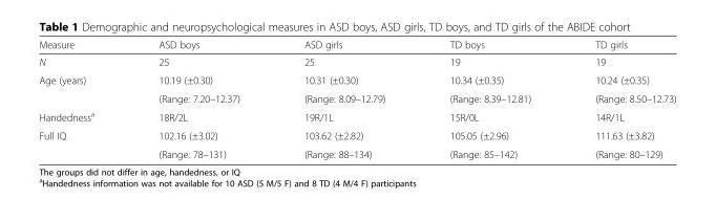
<table><thead><tr><td>Measure</td><td>ASD boys</td><td>ASD girls</td><td>TD boys</td><td>TD girls</td></tr></thead><tbody><tr><td>N</td><td>25</td><td>25</td><td>19</td><td>19</td></tr><tr><td rowspan="2">Age (years)</td><td>10.19 (±0.30)</td><td>10.31 (±0.30)</td><td>10.34 (±0.35)</td><td>10.24 (±0.35)</td></tr><tr><td>(Range: 7.20–12.37)</td><td>(Range: 8.09–12.79)</td><td>(Range: 8.39–12.81)</td><td>(Range: 8.50–12.73)</td></tr><tr><td>Handedness<sup>a</sup></td><td>18R/2L</td><td>19R/1L</td><td>15R/0L</td><td>14R/1L</td></tr><tr><td rowspan="2">Full IQ</td><td>102.16 (±3.02)</td><td>103.62 (±2.82)</td><td>105.05 (±2.96)</td><td>111.63 (±3.82)</td></tr><tr><td>(Range: 78–131)</td><td>(Range: 88–134)</td><td>(Range: 85–142)</td><td>(Range: 80–129)</td></tr></tbody></table>